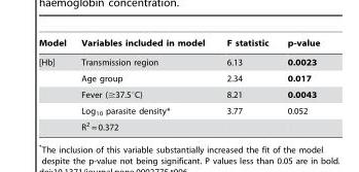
<table><thead><tr><td>Model</td><td>Variables included in model</td><td>F statistic</td><td>p-value</td></tr></thead><tbody><tr><td rowspan="5">[Hb]</td><td>Transmission region</td><td>6.13</td><td>0.0023</td></tr><tr><td>Age group</td><td>2.34</td><td>0.017</td></tr><tr><td>Fever (≥37.5°C)</td><td>8.21</td><td>0.0043</td></tr><tr><td>Log<sub>10</sub> parasite density*</td><td>3.77</td><td>0.052</td></tr><tr><td>R<sup>2</sup> = 0.372</td><td></td><td></td></tr></tbody></table>